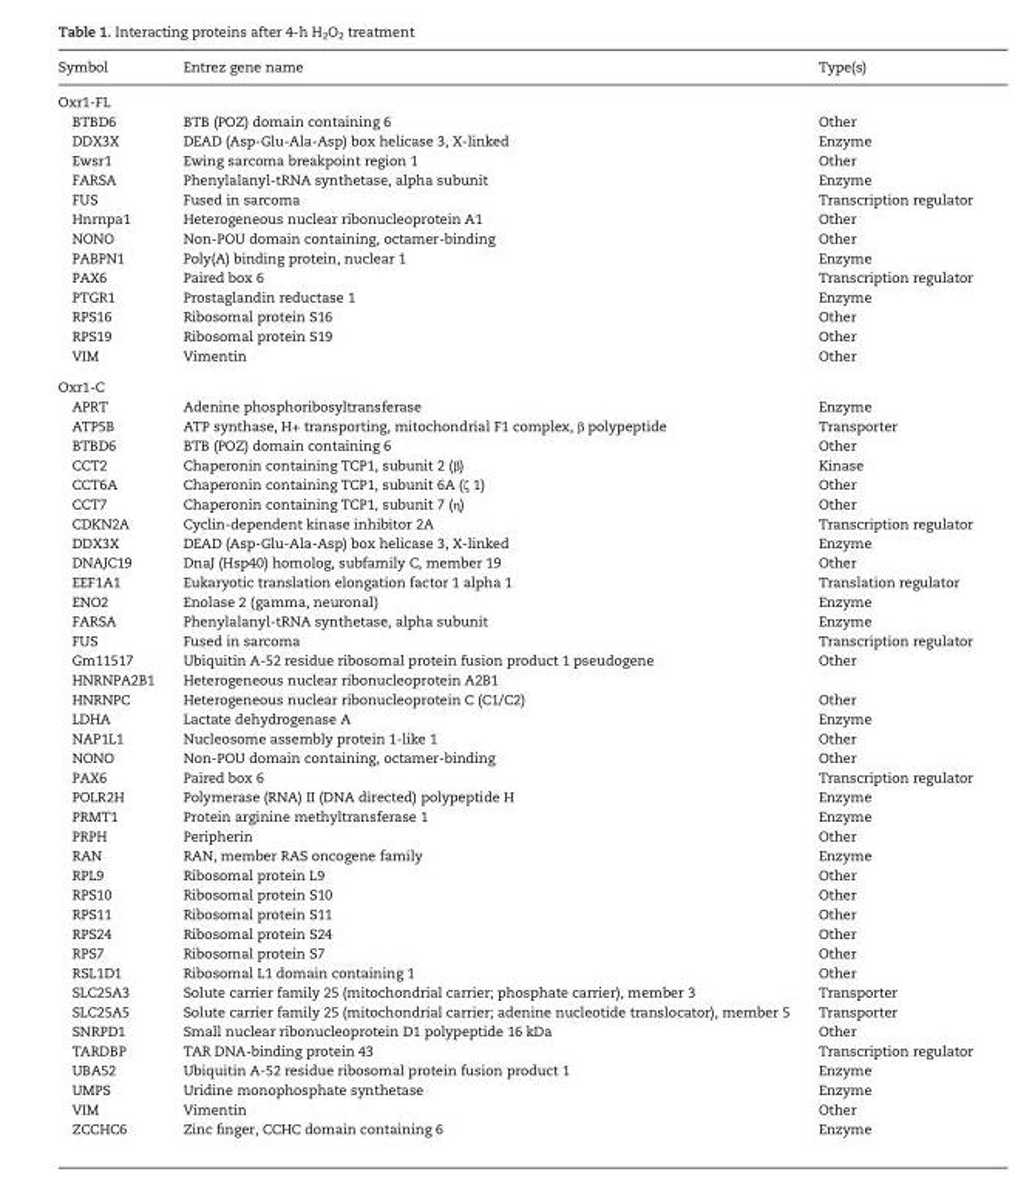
<table><thead><tr><td>Symbol</td><td>Entrez gene name</td><td>Type(s)</td></tr></thead><tbody><tr><td colspan="3">Oxr1-FL</td></tr><tr><td>BTBD6</td><td>BTB (POZ) domain containing 6</td><td>Other</td></tr><tr><td>DDX3X</td><td>DEAD (Asp-Glu-Ala-Asp) box helicase 3, X-linked</td><td>Enzyme</td></tr><tr><td>Ewsr1</td><td>Ewing sarcoma breakpoint region 1</td><td>Other</td></tr><tr><td>FARSA</td><td>Phenylalanyl-tRNA synthetase, alpha subunit</td><td>Enzyme</td></tr><tr><td>FUS</td><td>Fused in sarcoma</td><td>Transcription regulator</td></tr><tr><td>Hnrnpa1</td><td>Heterogeneous nuclear ribonucleoprotein A1</td><td>Other</td></tr><tr><td>NONO</td><td>Non-POU domain containing, octamer-binding</td><td>Other</td></tr><tr><td>PABPN1</td><td>Poly(A) binding protein, nuclear 1</td><td>Enzyme</td></tr><tr><td>PAX6</td><td>Paired box 6</td><td>Transcription regulator</td></tr><tr><td>PTGR1</td><td>Prostaglandin reductase 1</td><td>Enzyme</td></tr><tr><td>RPS16</td><td>Ribosomal protein S16</td><td>Other</td></tr><tr><td>RPS19</td><td>Ribosomal protein S19</td><td>Other</td></tr><tr><td>VIM</td><td>Vimentin</td><td>Other</td></tr><tr><td colspan="3">Oxr1-C</td></tr><tr><td>APRT</td><td>Adenine phosphoribosyltransferase</td><td>Enzyme</td></tr><tr><td>ATP5B</td><td>ATP synthase, H+ transporting, mitochondrial F1 complex, β polypeptide</td><td>Transporter</td></tr><tr><td>BTBD6</td><td>BTB (POZ) domain containing 6</td><td>Other</td></tr><tr><td>CCT2</td><td>Chaperonin containing TCP1, subunit 2 (β)</td><td>Kinase</td></tr><tr><td>CCT6A</td><td>Chaperonin containing TCP1, subunit 6A (ζ 1)</td><td>Other</td></tr><tr><td>CCT7</td><td>Chaperonin containing TCP1, subunit 7 (η)</td><td>Other</td></tr><tr><td>CDKN2A</td><td>Cyclin-dependent kinase inhibitor 2A</td><td>Transcription regulator</td></tr><tr><td>DDX3X</td><td>DEAD (Asp-Glu-Ala-Asp) box helicase 3, X-linked</td><td>Enzyme</td></tr><tr><td>DNAJC19</td><td>DnaJ (Hsp40) homolog, subfamily C, member 19</td><td>Other</td></tr><tr><td>EEF1A1</td><td>Eukaryotic translation elongation factor 1 alpha 1</td><td>Translation regulator</td></tr><tr><td>ENO2</td><td>Enolase 2 (gamma, neuronal)</td><td>Enzyme</td></tr><tr><td>FARSA</td><td>Phenylalanyl-tRNA synthetase, alpha subunit</td><td>Enzyme</td></tr><tr><td>FUS</td><td>Fused in sarcoma</td><td>Transcription regulator</td></tr><tr><td>Gm11517</td><td>Ubiquitin A-52 residue ribosomal protein fusion product 1 pseudogene</td><td>Other</td></tr><tr><td>HNRNPA2B1</td><td>Heterogeneous nuclear ribonucleoprotein A2B1</td><td></td></tr><tr><td>HNRNPC</td><td>Heterogeneous nuclear ribonucleoprotein C (C1/C2)</td><td>Other</td></tr><tr><td>LDHA</td><td>Lactate dehydrogenase A</td><td>Enzyme</td></tr><tr><td>NAP1L1</td><td>Nucleosome assembly protein 1-like 1</td><td>Other</td></tr><tr><td>NONO</td><td>Non-POU domain containing, octamer-binding</td><td>Other</td></tr><tr><td>PAX6</td><td>Paired box 6</td><td>Transcription regulator</td></tr><tr><td>POLR2H</td><td>Polymerase (RNA) II (DNA directed) polypeptide H</td><td>Enzyme</td></tr><tr><td>PRMT1</td><td>Protein arginine methyltransferase 1</td><td>Enzyme</td></tr><tr><td>PRPH</td><td>Peripherin</td><td>Other</td></tr><tr><td>RAN</td><td>RAN, member RAS oncogene family</td><td>Enzyme</td></tr><tr><td>RPL9</td><td>Ribosomal protein L9</td><td>Other</td></tr><tr><td>RPS10</td><td>Ribosomal protein S10</td><td>Other</td></tr><tr><td>RPS11</td><td>Ribosomal protein S11</td><td>Other</td></tr><tr><td>RPS24</td><td>Ribosomal protein S24</td><td>Other</td></tr><tr><td>RPS7</td><td>Ribosomal protein S7</td><td>Other</td></tr><tr><td>RSL1D1</td><td>Ribosomal L1 domain containing 1</td><td>Other</td></tr><tr><td>SLC25A3</td><td>Solute carrier family 25 (mitochondrial carrier; phosphate carrier), member 3</td><td>Transporter</td></tr><tr><td>SLC25A5</td><td>Solute carrier family 25 (mitochondrial carrier; adenine nucleotide translocator), member 5</td><td>Transporter</td></tr><tr><td>SNRPD1</td><td>Small nuclear ribonucleoprotein D1 polypeptide 16 kDa</td><td>Other</td></tr><tr><td>TARDBP</td><td>TAR DNA-binding protein 43</td><td>Transcription regulator</td></tr><tr><td>UBA52</td><td>Ubiquitin A-52 residue ribosomal protein fusion product 1</td><td>Enzyme</td></tr><tr><td>UMPS</td><td>Uridine monophosphate synthetase</td><td>Enzyme</td></tr><tr><td>VIM</td><td>Vimentin</td><td>Other</td></tr><tr><td>ZCCHC6</td><td>Zinc finger, CCHC domain containing 6</td><td>Enzyme</td></tr></tbody></table>